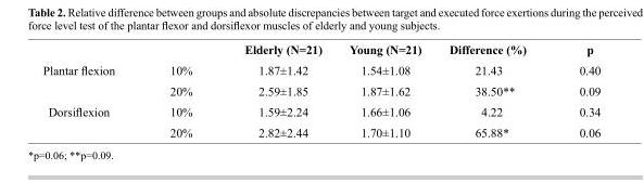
<table><thead><tr><td></td><td></td><td>Elderly (N=21)</td><td>Young (N=21)</td><td>Difference (%)</td><td>p</td></tr></thead><tbody><tr><td rowspan="2">Plantar flexion</td><td>10%</td><td>1.87±1.42</td><td>1.54±1.08</td><td>21.43</td><td>0.40</td></tr><tr><td>20%</td><td>2.59±1.85</td><td>1.87±1.62</td><td>38.50**</td><td>0.09</td></tr><tr><td rowspan="2">Dorsiflexion</td><td>10%</td><td>1.59±2.24</td><td>1.66±1.06</td><td>4.22</td><td>0.34</td></tr><tr><td>20%</td><td>2.82±2.44</td><td>1.70±1.10</td><td>65.88*</td><td>0.06</td></tr></tbody></table>